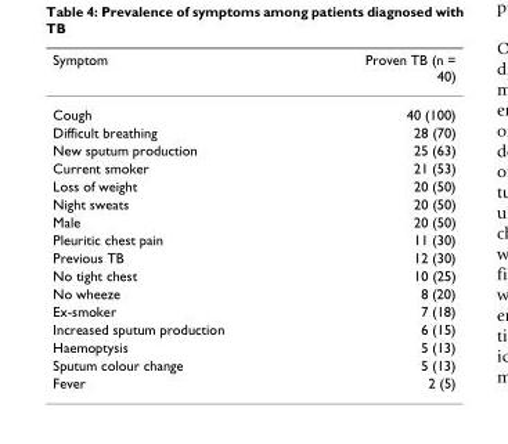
<table><thead><tr><td>Symptom</td><td>Proven TB (n = 40)</td></tr></thead><tbody><tr><td>Cough</td><td>40 (100)</td></tr><tr><td>Difficult breathing</td><td>28 (70)</td></tr><tr><td>New sputum production</td><td>25 (63)</td></tr><tr><td>Current smoker</td><td>21 (53)</td></tr><tr><td>Loss of weight</td><td>20 (50)</td></tr><tr><td>Night sweats</td><td>20 (50)</td></tr><tr><td>Male</td><td>20 (50)</td></tr><tr><td>Pleuritic chest pain</td><td>11 (30)</td></tr><tr><td>Previous TB</td><td>12 (30)</td></tr><tr><td>No tight chest</td><td>10 (25)</td></tr><tr><td>No wheeze</td><td>8 (20)</td></tr><tr><td>Ex-smoker</td><td>7 (18)</td></tr><tr><td>Increased sputum production</td><td>6 (15)</td></tr><tr><td>Haemoptysis</td><td>5 (13)</td></tr><tr><td>Sputum colour change</td><td>5 (13)</td></tr><tr><td>Fever</td><td>2 (5)</td></tr></tbody></table>